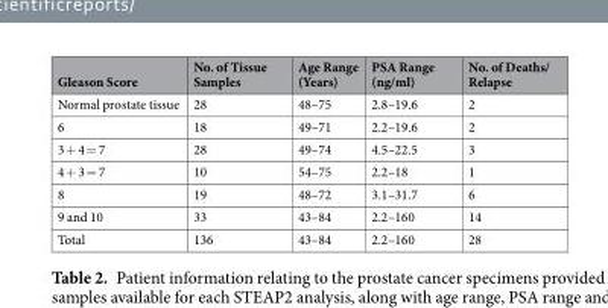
<table><thead><tr><td>Gleason Score</td><td>No. of Tissue Samples</td><td>Age Range (Years)</td><td>PSA Range (ng/ml)</td><td>No. of Deaths/ Relapse</td></tr></thead><tbody><tr><td>Normal prostate tissue</td><td>28</td><td>48–75</td><td>2.8–19.6</td><td>2</td></tr><tr><td>6</td><td>18</td><td>49–71</td><td>2.2–19.6</td><td>2</td></tr><tr><td>3 + 4 = 7</td><td>28</td><td>49–74</td><td>4.5–22.5</td><td>3</td></tr><tr><td>4 + 3 = 7</td><td>10</td><td>54–75</td><td>2.2–18</td><td>1</td></tr><tr><td>8</td><td>19</td><td>48–72</td><td>3.1–31.7</td><td>6</td></tr><tr><td>9 and 10</td><td>33</td><td>43–84</td><td>2.2–160</td><td>14</td></tr><tr><td>Total</td><td>136</td><td>43–84</td><td>2.2–160</td><td>28</td></tr></tbody></table>